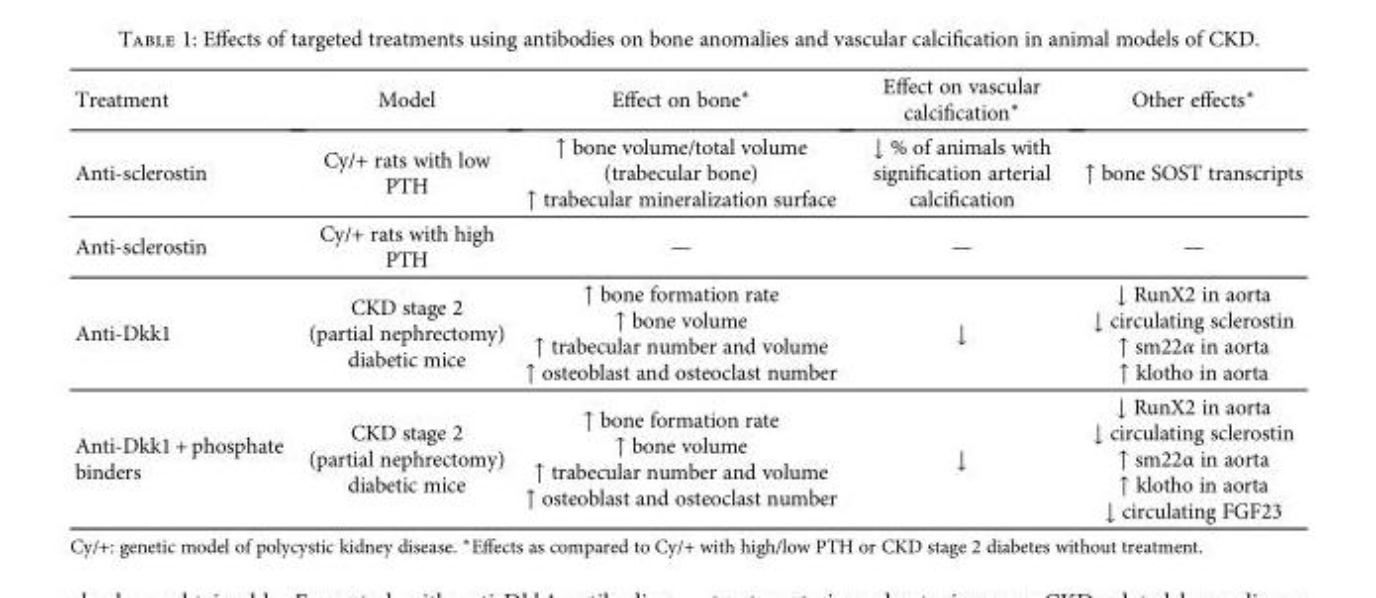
<table><thead><tr><td>Treatment</td><td>Model</td><td>Effect on bone∗</td><td>Effect on vascular calcification∗</td><td>Other effects∗</td></tr></thead><tbody><tr><td>Anti-sclerostin</td><td>Cy/+ rats with low PTH</td><td>↑ bone volume/total volume (trabecular bone) ↑ trabecular mineralization surface</td><td>↓ % of animals with signification arterial calcification</td><td>↑ bone SOST transcripts</td></tr><tr><td>Anti-sclerostin</td><td>Cy/+ rats with high PTH</td><td>—</td><td>—</td><td>—</td></tr><tr><td>Anti-Dkk1</td><td>CKD stage 2 (partial nephrectomy) diabetic mice</td><td>↑ bone formation rate ↑ bone volume ↑ trabecular number and volume ↑ osteoblast and osteoclast number</td><td>↓</td><td>↓ RunX2 in aorta ↓ circulating sclerostin ↑ sm22α in aorta ↑ klotho in aorta</td></tr><tr><td>Anti-Dkk1 + phosphate binders</td><td>CKD stage 2 (partial nephrectomy) diabetic mice</td><td>↑ bone formation rate ↑ bone volume ↑ trabecular number and volume ↑ osteoblast and osteoclast number</td><td>↓</td><td>↓ RunX2 in aorta ↓ circulating sclerostin ↑ sm22α in aorta ↑ klotho in aorta ↓ circulating FGF23</td></tr></tbody></table>